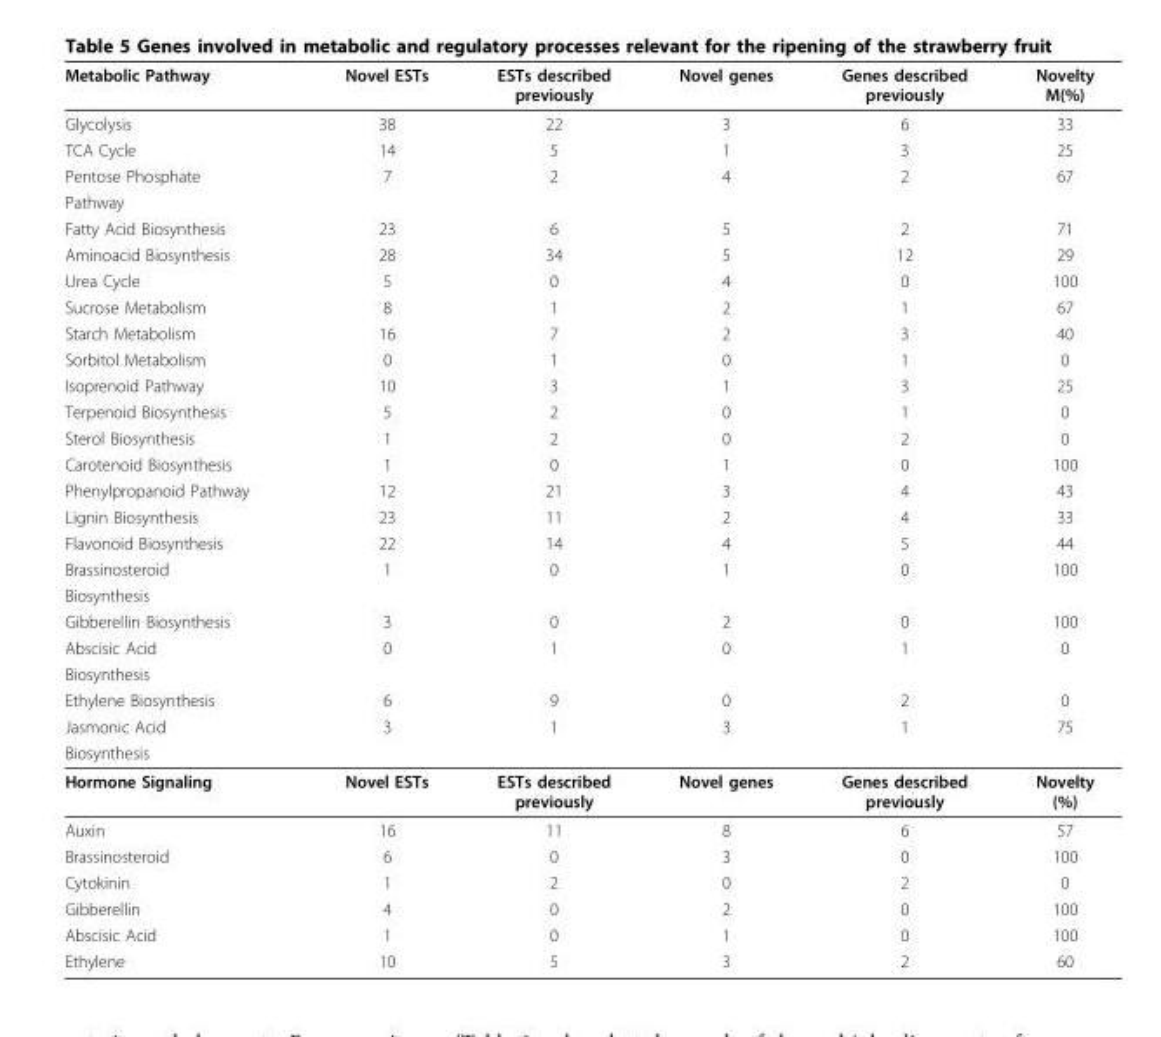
<table><thead><tr><td>Metabolic Pathway</td><td>Novel ESTs</td><td>ESTs described previously</td><td>Novel genes</td><td>Genes described previously</td><td>Novelty M(%)</td></tr></thead><tbody><tr><td>Glycolysis</td><td>38</td><td>22</td><td>3</td><td>6</td><td>33</td></tr><tr><td>TCA Cycle</td><td>14</td><td>5</td><td>1</td><td>3</td><td>25</td></tr><tr><td>Pentose Phosphate</td><td>7</td><td>2</td><td>4</td><td>2</td><td>67</td></tr><tr><td colspan="6">Pathway</td></tr><tr><td>Fatty Acid Biosynthesis</td><td>23</td><td>6</td><td>5</td><td>2</td><td>71</td></tr><tr><td>Aminoacid Biosynthesis</td><td>28</td><td>34</td><td>5</td><td>12</td><td>29</td></tr><tr><td>Urea Cycle</td><td>5</td><td>0</td><td>4</td><td>0</td><td>100</td></tr><tr><td>Sucrose Metabolism</td><td>8</td><td>1</td><td>2</td><td>1</td><td>67</td></tr><tr><td>Starch Metabolism</td><td>16</td><td>7</td><td>2</td><td>3</td><td>40</td></tr><tr><td>Sorbitol Metabolism</td><td>0</td><td>1</td><td>0</td><td>1</td><td>0</td></tr><tr><td>Isoprenoid Pathway</td><td>10</td><td>3</td><td>1</td><td>3</td><td>25</td></tr><tr><td>Terpenoid Biosynthesis</td><td>5</td><td>2</td><td>0</td><td>1</td><td>0</td></tr><tr><td>Sterol Biosynthesis</td><td>1</td><td>2</td><td>0</td><td>2</td><td>0</td></tr><tr><td>Carotenoid Biosynthesis</td><td>1</td><td>0</td><td>1</td><td>0</td><td>100</td></tr><tr><td>Phenylpropanoid Pathway</td><td>12</td><td>21</td><td>3</td><td>4</td><td>43</td></tr><tr><td>Lignin Biosynthesis</td><td>23</td><td>11</td><td>2</td><td>4</td><td>33</td></tr><tr><td>Flavonoid Biosynthesis</td><td>22</td><td>14</td><td>4</td><td>5</td><td>44</td></tr><tr><td>Brassinosteroid</td><td>1</td><td>0</td><td>1</td><td>0</td><td>100</td></tr><tr><td colspan="6">Biosynthesis</td></tr><tr><td>Gibberellin Biosynthesis</td><td>3</td><td>0</td><td>2</td><td>0</td><td>100</td></tr><tr><td>Abscisic Acid</td><td>0</td><td>1</td><td>0</td><td>1</td><td>0</td></tr><tr><td colspan="6">Biosynthesis</td></tr><tr><td>Ethylene Biosynthesis</td><td>6</td><td>9</td><td>0</td><td>2</td><td>0</td></tr><tr><td>Jasmonic Acid</td><td>3</td><td>1</td><td>3</td><td>1</td><td>75</td></tr><tr><td colspan="6">Biosynthesis</td></tr><tr><td>Hormone Signaling</td><td>Novel ESTs</td><td>ESTs described previously</td><td>Novel genes</td><td>Genes described previously</td><td>Novelty (%)</td></tr><tr><td>Auxin</td><td>16</td><td>11</td><td>8</td><td>6</td><td>57</td></tr><tr><td>Brassinosteroid</td><td>6</td><td>0</td><td>3</td><td>0</td><td>100</td></tr><tr><td>Cytokinin</td><td>1</td><td>2</td><td>0</td><td>2</td><td>0</td></tr><tr><td>Gibberellin</td><td>4</td><td>0</td><td>2</td><td>0</td><td>100</td></tr><tr><td>Abscisic Acid</td><td>1</td><td>0</td><td>1</td><td>0</td><td>100</td></tr><tr><td>Ethylene</td><td>10</td><td>5</td><td>3</td><td>2</td><td>60</td></tr></tbody></table>